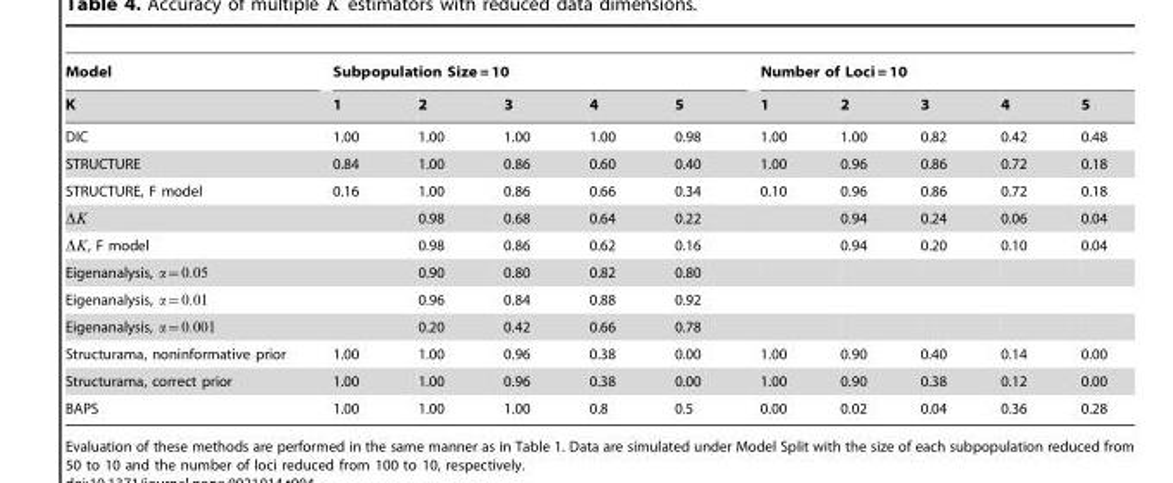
<table><thead><tr><td rowspan="2">Model K</td><td colspan="5">Subpopulation Size = 10</td><td colspan="5">Number of Loci = 10</td></tr><tr><td>1</td><td>2</td><td>3</td><td>4</td><td>5</td><td>1</td><td>2</td><td>3</td><td>4</td><td>5</td></tr></thead><tbody><tr><td>DIC</td><td>1.00</td><td>1.00</td><td>1.00</td><td>1.00</td><td>0.98</td><td>1.00</td><td>1.00</td><td>0.82</td><td>0.42</td><td>0.48</td></tr><tr><td>STRUCTURE</td><td>0.84</td><td>1.00</td><td>0.86</td><td>0.60</td><td>0.40</td><td>1.00</td><td>0.96</td><td>0.86</td><td>0.72</td><td>0.18</td></tr><tr><td rowspan="2">STRUCTURE, F model DK</td><td>0.16</td><td>1.00</td><td>0.86</td><td>0.66</td><td>0.34</td><td>0.10</td><td>0.96</td><td>0.86</td><td>0.72</td><td>0.18</td></tr><tr><td></td><td>0.98</td><td>0.68</td><td>0.64</td><td>0.22</td><td></td><td>0.94</td><td>0.24</td><td>0.06</td><td>0.04</td></tr><tr><td>DK, F model</td><td></td><td>0.98</td><td>0.86</td><td>0.62</td><td>0.16</td><td></td><td>0.94</td><td>0.20</td><td>0.10</td><td>0.04</td></tr><tr><td>Eigenanalysis, a~0:05</td><td></td><td>0.90</td><td>0.80</td><td>0.82</td><td>0.80</td><td></td><td></td><td></td><td></td><td></td></tr><tr><td>Eigenanalysis, a~0:01</td><td></td><td>0.96</td><td>0.84</td><td>0.88</td><td>0.92</td><td></td><td></td><td></td><td></td><td></td></tr><tr><td>Eigenanalysis, a~0:001</td><td></td><td>0.20</td><td>0.42</td><td>0.66</td><td>0.78</td><td></td><td></td><td></td><td></td><td></td></tr><tr><td>Structurama, noninformative prior</td><td>1.00</td><td>1.00</td><td>0.96</td><td>0.38</td><td>0.00</td><td>1.00</td><td>0.90</td><td>0.40</td><td>0.14</td><td>0.00</td></tr><tr><td>Structurama, correct prior</td><td>1.00</td><td>1.00</td><td>0.96</td><td>0.38</td><td>0.00</td><td>1.00</td><td>0.90</td><td>0.38</td><td>0.12</td><td>0.00</td></tr><tr><td>BAPS</td><td>1.00</td><td>1.00</td><td>1.00</td><td>0.8</td><td>0.5</td><td>0.00</td><td>0.02</td><td>0.04</td><td>0.36</td><td>0.28</td></tr></tbody></table>